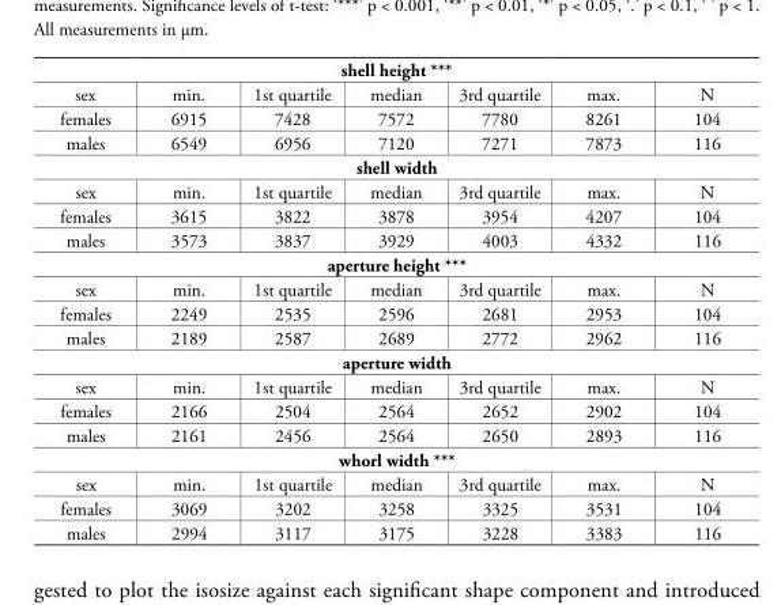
<table><tbody><tr><td colspan="7">shell height ***</td></tr><tr><td>sex</td><td>min.</td><td>1st quartile</td><td>median</td><td>3rd quartile</td><td>max.</td><td>N</td></tr><tr><td>females</td><td>6915</td><td>7428</td><td>7572</td><td>7780</td><td>8261</td><td>104</td></tr><tr><td>males</td><td>6549</td><td>6956</td><td>7120</td><td>7271</td><td>7873</td><td>116</td></tr><tr><td colspan="7">shell width</td></tr><tr><td>sex</td><td>min.</td><td>1st quartile</td><td>median</td><td>3rd quartile</td><td>max.</td><td>N</td></tr><tr><td>females</td><td>3615</td><td>3822</td><td>3878</td><td>3954</td><td>4207</td><td>104</td></tr><tr><td>males</td><td>3573</td><td>3837</td><td>3929</td><td>4003</td><td>4332</td><td>116</td></tr><tr><td colspan="7">aperture height ***</td></tr><tr><td>sex</td><td>min.</td><td>1st quartile</td><td>median</td><td>3rd quartile</td><td>max.</td><td>N</td></tr><tr><td>females</td><td>2249</td><td>2535</td><td>2596</td><td>2681</td><td>2953</td><td>104</td></tr><tr><td>males</td><td>2189</td><td>2587</td><td>2689</td><td>2772</td><td>2962</td><td>116</td></tr><tr><td colspan="7">aperture width</td></tr><tr><td>sex</td><td>min.</td><td>1st quartile</td><td>median</td><td>3rd quartile</td><td>max.</td><td>N</td></tr><tr><td>females</td><td>2166</td><td>2504</td><td>2564</td><td>2652</td><td>2902</td><td>104</td></tr><tr><td>males</td><td>2161</td><td>2456</td><td>2564</td><td>2650</td><td>2893</td><td>116</td></tr><tr><td colspan="7">whorl width ***</td></tr><tr><td>sex</td><td>min.</td><td>1st quartile</td><td>median</td><td>3rd quartile</td><td>max.</td><td>N</td></tr><tr><td>females</td><td>3069</td><td>3202</td><td>3258</td><td>3325</td><td>3531</td><td>104</td></tr><tr><td>males</td><td>2994</td><td>3117</td><td>3175</td><td>3228</td><td>3383</td><td>116</td></tr></tbody></table>